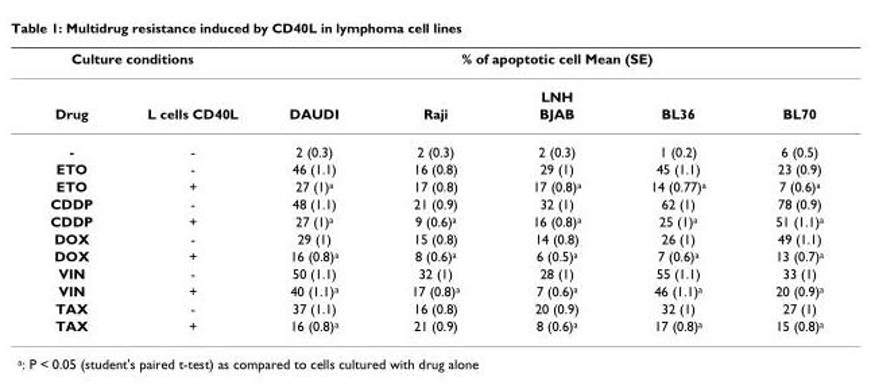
<table><thead><tr><td rowspan="2" colspan="2">Culture conditions</td><td rowspan="2" colspan="5">% of apoptotic cell Mean (SE) LNH</td></tr><tr></tr><tr><td>Drug</td><td>L cells CD40L</td><td>DAUDI</td><td>Raji</td><td>BJAB</td><td>BL36</td><td>BL70</td></tr></thead><tbody><tr><td>-</td><td>-</td><td>2 (0.3)</td><td>2 (0.3)</td><td>2 (0.3)</td><td>1 (0.2)</td><td>6 (0.5)</td></tr><tr><td>ETO</td><td>-</td><td>46 (1.1)</td><td>16 (0.8)</td><td>29 (1)</td><td>45 (1.1)</td><td>23 (0.9)</td></tr><tr><td>ETO</td><td>+</td><td>27 (1)a</td><td>17 (0.8)</td><td>17 (0.8)a</td><td>14 (0.77)a</td><td>7 (0.6)a</td></tr><tr><td>CDDP</td><td>-</td><td>48 (1.1)</td><td>21 (0.9)</td><td>32 (1)</td><td>62 (1)</td><td>78 (0.9)</td></tr><tr><td>CDDP</td><td>+</td><td>27 (1)a</td><td>9 (0.6)a</td><td>16 (0.8)a</td><td>25 (1)a</td><td>51 (1.1)a</td></tr><tr><td>DOX</td><td>-</td><td>29 (1)</td><td>15 (0.8)</td><td>14 (0.8)</td><td>26 (1)</td><td>49 (1.1)</td></tr><tr><td>DOX</td><td>+</td><td>16 (0.8)a</td><td>8 (0.6)a</td><td>6 (0.5)a</td><td>7 (0.6)a</td><td>13 (0.7)a</td></tr><tr><td>VIN</td><td>-</td><td>50 (1.1)</td><td>32 (1)</td><td>28 (1)</td><td>55 (1.1)</td><td>33 (1)</td></tr><tr><td>VIN</td><td>+</td><td>40 (1.1)a</td><td>17 (0.8)a</td><td>7 (0.6)a</td><td>46 (1.1)a</td><td>20 (0.9)a</td></tr><tr><td>TAX</td><td>-</td><td>37 (1.1)</td><td>16 (0.8)</td><td>20 (0.9)</td><td>32 (1)</td><td>27 (1)</td></tr><tr><td>TAX</td><td>+</td><td>16 (0.8)a</td><td>21 (0.9)</td><td>8 (0.6)a</td><td>17 (0.8)a</td><td>15 (0.8)a</td></tr></tbody></table>